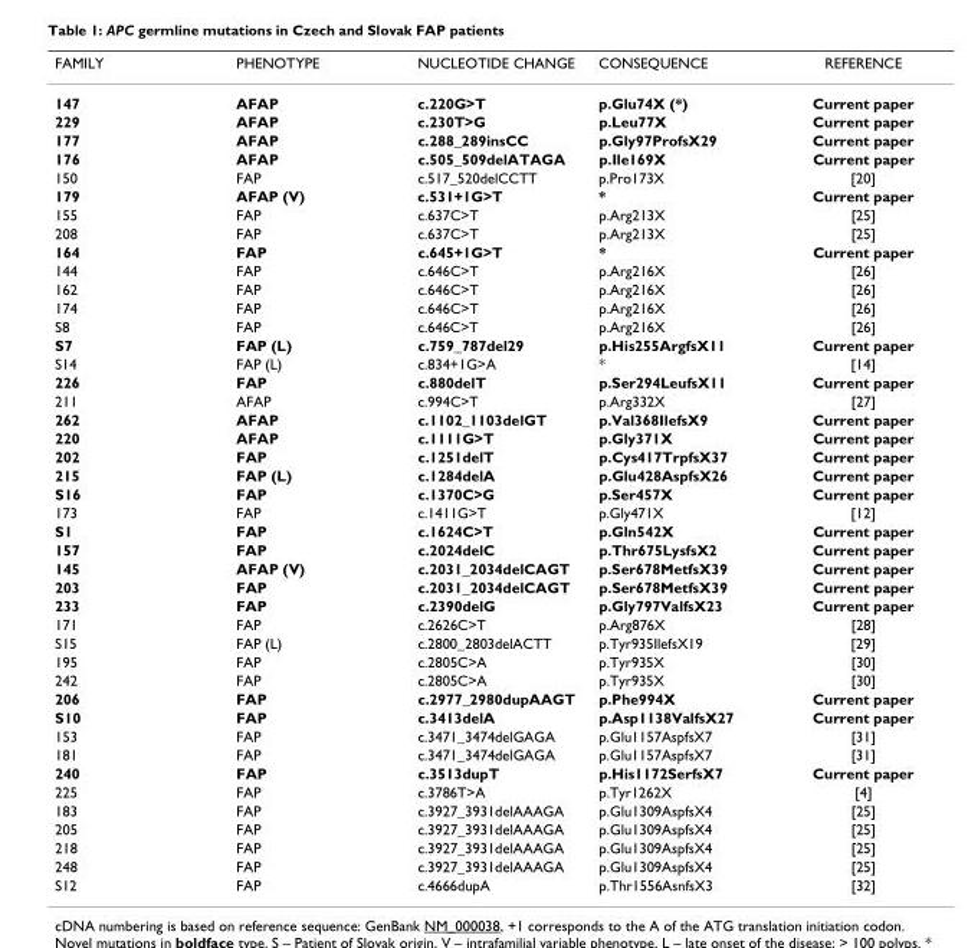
<table><thead><tr><td>FAMILY</td><td>PHENOTYPE</td><td>NUCLEOTIDE CHANGE</td><td>CONSEQUENCE</td><td>REFERENCE</td></tr></thead><tbody><tr><td>147</td><td>AFAP</td><td>c.220G&gt;T</td><td>p.Glu74X (*)</td><td>Current paper</td></tr><tr><td>229</td><td>AFAP</td><td>c.230T&gt;G</td><td>p.Leu77X</td><td>Current paper</td></tr><tr><td>177</td><td>AFAP</td><td>c.288_289insCC</td><td>p.Gly97ProfsX29</td><td>Current paper</td></tr><tr><td>176</td><td>AFAP</td><td>c.505_509delATAGA</td><td>p.Ile169X</td><td>Current paper</td></tr><tr><td>150</td><td>FAP</td><td>c.517_520delCCTT</td><td>p.Pro173X</td><td>[20]</td></tr><tr><td>179</td><td>AFAP (V)</td><td>c.531+1G&gt;T</td><td>*</td><td>Current paper</td></tr><tr><td>155</td><td>FAP</td><td>c.637C&gt;T</td><td>p.Arg213X</td><td>[25]</td></tr><tr><td>208</td><td>FAP</td><td>c.637C&gt;T</td><td>p.Arg213X</td><td>[25]</td></tr><tr><td>164</td><td>FAP</td><td>c.645+1G&gt;T</td><td>*</td><td>Current paper</td></tr><tr><td>144</td><td>FAP</td><td>c.646C&gt;T</td><td>p.Arg216X</td><td>[26]</td></tr><tr><td>162</td><td>FAP</td><td>c.646C&gt;T</td><td>p.Arg216X</td><td>[26]</td></tr><tr><td>174</td><td>FAP</td><td>c.646C&gt;T</td><td>p.Arg216X</td><td>[26]</td></tr><tr><td>S8</td><td>FAP</td><td>c.646C&gt;T</td><td>p.Arg216X</td><td>[26]</td></tr><tr><td>S7</td><td>FAP (L)</td><td>c.759_787del29</td><td>p.His255ArgfsX11</td><td>Current paper</td></tr><tr><td>S14</td><td>FAP (L)</td><td>c.834+1G&gt;A</td><td>*</td><td>[14]</td></tr><tr><td>226</td><td>FAP</td><td>c.880delT</td><td>p.Ser294LeufsX11</td><td>Current paper</td></tr><tr><td>211</td><td>AFAP</td><td>c.994C&gt;T</td><td>p.Arg332X</td><td>[27]</td></tr><tr><td>262</td><td>AFAP</td><td>c.1102_1103delGT</td><td>p.Val368IlefsX9</td><td>Current paper</td></tr><tr><td>220</td><td>AFAP</td><td>c.1111G&gt;T</td><td>p.Gly371X</td><td>Current paper</td></tr><tr><td>202</td><td>FAP</td><td>c.1251delT</td><td>p.Cys417TrpfsX37</td><td>Current paper</td></tr><tr><td>215</td><td>FAP (L)</td><td>c.1284delA</td><td>p.Glu428AspfsX26</td><td>Current paper</td></tr><tr><td>S16</td><td>FAP</td><td>c.1370C&gt;G</td><td>p.Ser457X</td><td>Current paper</td></tr><tr><td>173</td><td>FAP</td><td>c.1411G&gt;T</td><td>p.Gly471X</td><td>[12]</td></tr><tr><td>S1</td><td>FAP</td><td>c.1624C&gt;T</td><td>p.Gln542X</td><td>Current paper</td></tr><tr><td>157</td><td>FAP</td><td>c.2024delC</td><td>p.Thr675LysfsX2</td><td>Current paper</td></tr><tr><td>145</td><td>AFAP (V)</td><td>c.2031_2034delCAGT</td><td>p.Ser678MetfsX39</td><td>Current paper</td></tr><tr><td>203</td><td>FAP</td><td>c.2031_2034delCAGT</td><td>p.Ser678MetfsX39</td><td>Current paper</td></tr><tr><td>233</td><td>FAP</td><td>c.2390delG</td><td>p.Gly797ValfsX23</td><td>Current paper</td></tr><tr><td>171</td><td>FAP</td><td>c.2626C&gt;T</td><td>p.Arg876X</td><td>[28]</td></tr><tr><td>S15</td><td>FAP (L)</td><td>c.2800_2803delACTT</td><td>p.Tyr935IlefsX19</td><td>[29]</td></tr><tr><td>195</td><td>FAP</td><td>c.2805C&gt;A</td><td>p.Tyr935X</td><td>[30]</td></tr><tr><td>242</td><td>FAP</td><td>c.2805C&gt;A</td><td>p.Tyr935X</td><td>[30]</td></tr><tr><td>206</td><td>FAP</td><td>c.2977_2980dupAAGT</td><td>p.Phe994X</td><td>Current paper</td></tr><tr><td>S10</td><td>FAP</td><td>c.3413delA</td><td>p.Asp1138ValfsX27</td><td>Current paper</td></tr><tr><td>153</td><td>FAP</td><td>c.3471_3474delGAGA</td><td>p.Glu1157AspfsX7</td><td>[31]</td></tr><tr><td>181</td><td>FAP</td><td>c.3471_3474delGAGA</td><td>p.Glu1157AspfsX7</td><td>[31]</td></tr><tr><td>240</td><td>FAP</td><td>c.3513dupT</td><td>p.His1172SerfsX7</td><td>Current paper</td></tr><tr><td>225</td><td>FAP</td><td>c.3786T&gt;A</td><td>p.Tyr1262X</td><td>[4]</td></tr><tr><td>183</td><td>FAP</td><td>c.3927_3931delAAAGA</td><td>p.Glu1309AspfsX4</td><td>[25]</td></tr><tr><td>205</td><td>FAP</td><td>c.3927_3931delAAAGA</td><td>p.Glu1309AspfsX4</td><td>[25]</td></tr><tr><td>218</td><td>FAP</td><td>c.3927_3931delAAAGA</td><td>p.Glu1309AspfsX4</td><td>[25]</td></tr><tr><td>248</td><td>FAP</td><td>c.3927_3931delAAAGA</td><td>p.Glu1309AspfsX4</td><td>[25]</td></tr><tr><td>S12</td><td>FAP</td><td>c.4666dupA</td><td>p.Thr1556AsnfsX3</td><td>[32]</td></tr></tbody></table>